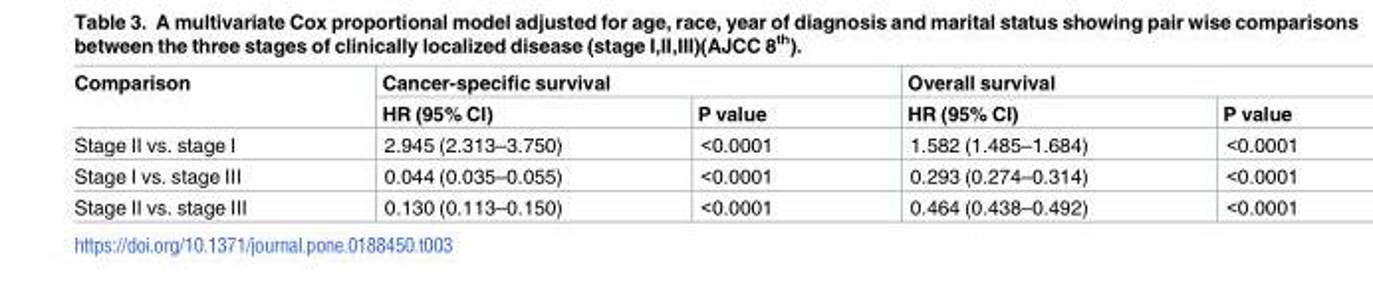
<table><thead><tr><td rowspan="2">Comparison</td><td colspan="2">Cancer-specific survival</td><td colspan="2">Overall survival</td></tr><tr><td>HR (95% CI)</td><td>P value</td><td>HR (95% CI)</td><td>P value</td></tr></thead><tbody><tr><td>Stage II vs. stage I</td><td>2.945 (2.313–3.750)</td><td>&lt;0.0001</td><td>1.582 (1.485–1.684)</td><td>&lt;0.0001</td></tr><tr><td>Stage I vs. stage III</td><td>0.044 (0.035–0.055)</td><td>&lt;0.0001</td><td>0.293 (0.274–0.314)</td><td>&lt;0.0001</td></tr><tr><td>Stage II vs. stage III</td><td>0.130 (0.113–0.150)</td><td>&lt;0.0001</td><td>0.464 (0.438–0.492)</td><td>&lt;0.0001</td></tr></tbody></table>